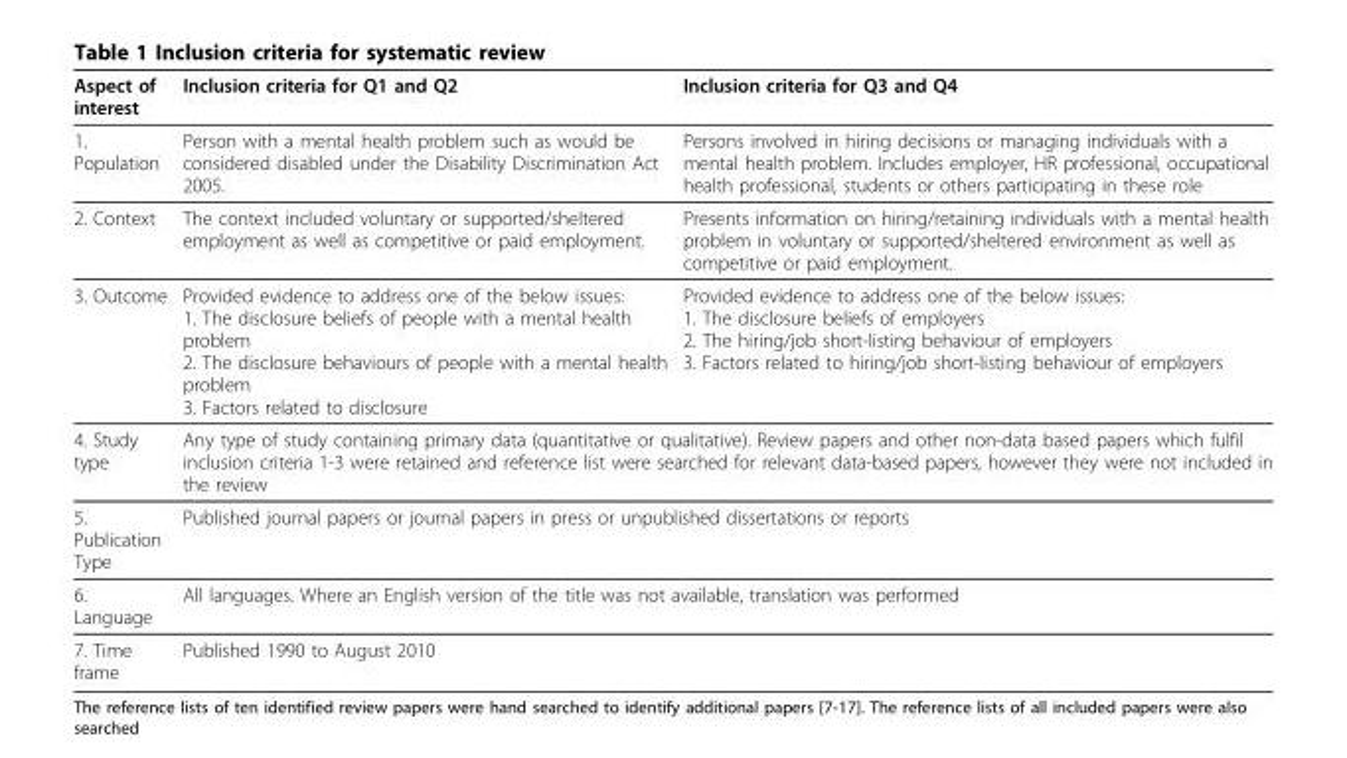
<table><thead><tr><td>Aspect of interest</td><td>Inclusion criteria for Q1 and Q2</td><td>Inclusion criteria for Q3 and Q4</td></tr></thead><tbody><tr><td>1. Population</td><td>Person with a mental health problem such as would be considered disabled under the Disability Discrimination Act 2005.</td><td>Persons involved in hiring decisions or managing individuals with a mental health problem. Includes employer, HR professional, occupational health professional, students or others participating in these role</td></tr><tr><td>2. Context</td><td>The context included voluntary or supported/sheltered employment as well as competitive or paid employment.</td><td>Presents information on hiring/retaining individuals with a mental health problem in voluntary or supported/sheltered environment as well as competitive or paid employment.</td></tr><tr><td>3. Outcome</td><td>Provided evidence to address one of the below issues: 1. The disclosure beliefs of people with a mental health problem 2. The disclosure behaviours of people with a mental health problem 3. Factors related to disclosure</td><td>Provided evidence to address one of the below issues: 1. The disclosure beliefs of employers 2. The hiring/job short-listing behaviour of employers 3. Factors related to hiring/job short-listing behaviour of employers</td></tr><tr><td>4. Study type</td><td colspan="2">Any type of study containing primary data (quantitative or qualitative). Review papers and other non-data based papers which fulfil inclusion criteria 1-3 were retained and reference list were searched for relevant data-based papers, however they were not included in the review</td></tr><tr><td>5. Publication Type</td><td colspan="2">Published journal papers or journal papers in press or unpublished dissertations or reports</td></tr><tr><td>6. Language</td><td colspan="2">All languages. Where an English version of the title was not available, translation was performed</td></tr><tr><td>7. Time frame</td><td colspan="2">Published 1990 to August 2010</td></tr></tbody></table>